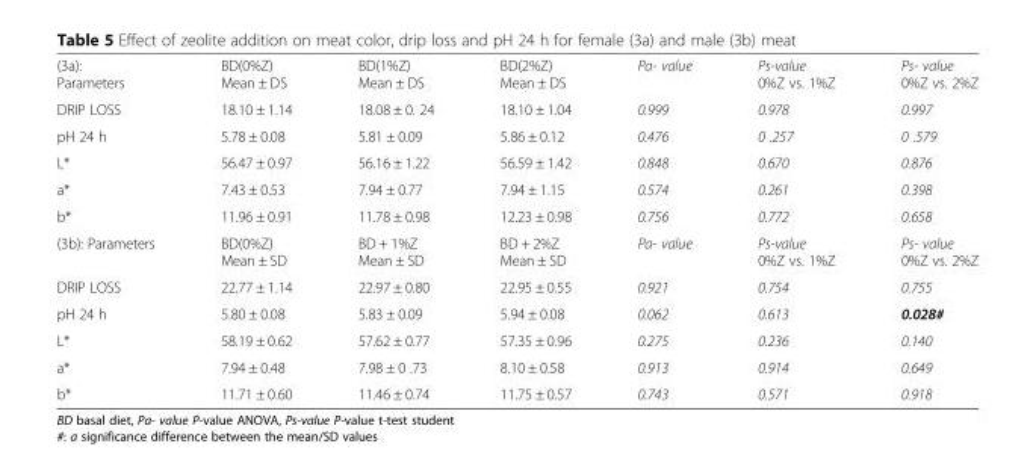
<table><tbody><tr><td>(3a): Parameters</td><td>BD(0%Z) Mean ± DS</td><td>BD(1%Z) Mean ± DS</td><td>BD(2%Z) Mean ± DS</td><td>Pa- value</td><td>Ps-value 0%Z vs. 1%Z</td><td>Ps- value 0%Z vs. 2%Z</td></tr><tr><td>DRIP LOSS</td><td>18.10 ± 1.14</td><td>18.08 ± 0. 24</td><td>18.10 ± 1.04</td><td>0.999</td><td>0.978</td><td>0.997</td></tr><tr><td>pH 24 h</td><td>5.78 ± 0.08</td><td>5.81 ± 0.09</td><td>5.86 ± 0.12</td><td>0.476</td><td>0 .257</td><td>0 .579</td></tr><tr><td>L*</td><td>56.47 ± 0.97</td><td>56.16 ± 1.22</td><td>56.59 ± 1.42</td><td>0.848</td><td>0.670</td><td>0.876</td></tr><tr><td>a*</td><td>7.43 ± 0.53</td><td>7.94 ± 0.77</td><td>7.94 ± 1.15</td><td>0.574</td><td>0.261</td><td>0.398</td></tr><tr><td>b*</td><td>11.96 ± 0.91</td><td>11.78 ± 0.98</td><td>12.23 ± 0.98</td><td>0.756</td><td>0.772</td><td>0.658</td></tr><tr><td>(3b): Parameters</td><td>BD(0%Z) Mean ± SD</td><td>BD + 1%Z Mean ± SD</td><td>BD + 2%Z Mean ± SD</td><td>Pa- value</td><td>Ps-value 0%Z vs. 1%Z</td><td>Ps- value 0%Z vs. 2%Z</td></tr><tr><td>DRIP LOSS</td><td>22.77 ± 1.14</td><td>22.97 ± 0.80</td><td>22.95 ± 0.55</td><td>0.921</td><td>0.754</td><td>0.755</td></tr><tr><td>pH 24 h</td><td>5.80 ± 0.08</td><td>5.83 ± 0.09</td><td>5.94 ± 0.08</td><td>0.062</td><td>0.613</td><td>0.028#</td></tr><tr><td>L*</td><td>58.19 ± 0.62</td><td>57.62 ± 0.77</td><td>57.35 ± 0.96</td><td>0.275</td><td>0.236</td><td>0.140</td></tr><tr><td>a*</td><td>7.94 ± 0.48</td><td>7.98 ± 0 .73</td><td>8.10 ± 0.58</td><td>0.913</td><td>0.914</td><td>0.649</td></tr><tr><td>b*</td><td>11.71 ± 0.60</td><td>11.46 ± 0.74</td><td>11.75 ± 0.57</td><td>0.743</td><td>0.571</td><td>0.918</td></tr></tbody></table>